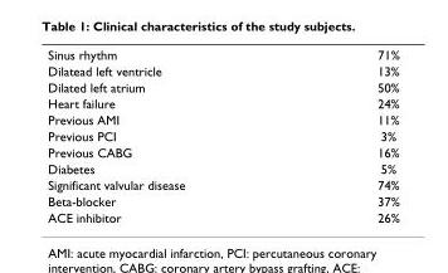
<table><tbody><tr><td>Sinus rhythm</td><td>71%</td></tr><tr><td>Dilatead left ventricle</td><td>13%</td></tr><tr><td>Dilated left atrium</td><td>50%</td></tr><tr><td>Heart failure</td><td>24%</td></tr><tr><td>Previous AMI</td><td>11%</td></tr><tr><td>Previous PCI</td><td>3%</td></tr><tr><td>Previous CABG</td><td>16%</td></tr><tr><td>Diabetes</td><td>5%</td></tr><tr><td>Significant valvular disease</td><td>74%</td></tr><tr><td>Beta-blocker</td><td>37%</td></tr><tr><td>ACE inhibitor</td><td>26%</td></tr></tbody></table>